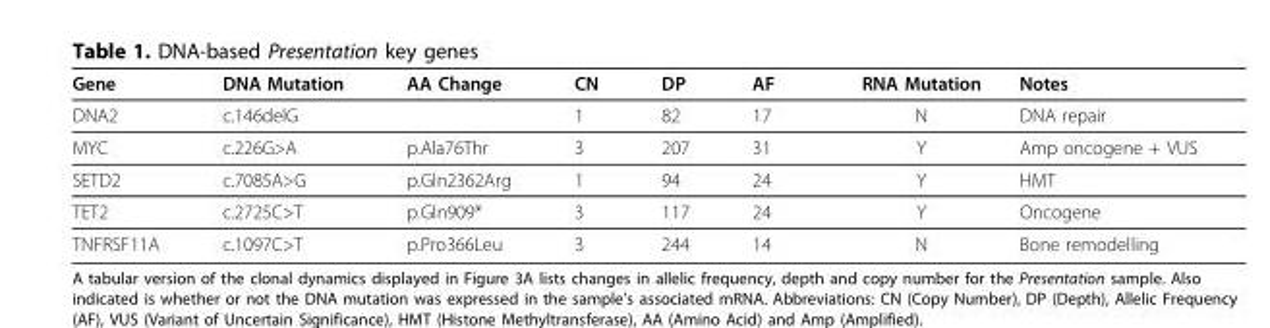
<table><thead><tr><td>Gene</td><td>DNA Mutation</td><td>AA Change</td><td>CN</td><td>DP</td><td>AF</td><td>RNA Mutation</td><td>Notes</td></tr></thead><tbody><tr><td>DNA2</td><td>c.146delG</td><td></td><td>1</td><td>82</td><td>17</td><td>N</td><td>DNA repair</td></tr><tr><td>MYC</td><td>c.226G&gt;A</td><td>p.Ala76Thr</td><td>3</td><td>207</td><td>31</td><td>Y</td><td>Amp oncogene + VUS</td></tr><tr><td>SETD2</td><td>c.7085A&gt;G</td><td>p.Gln2362Arg</td><td>1</td><td>94</td><td>24</td><td>Y</td><td>HMT</td></tr><tr><td>TET2</td><td>c.2725C&gt;T</td><td>p.Gln909*</td><td>3</td><td>117</td><td>24</td><td>Y</td><td>Oncogene</td></tr><tr><td>TNFRSF11A</td><td>c.1097C&gt;T</td><td>p.Pro366Leu</td><td>3</td><td>244</td><td>14</td><td>N</td><td>Bone remodelling</td></tr></tbody></table>